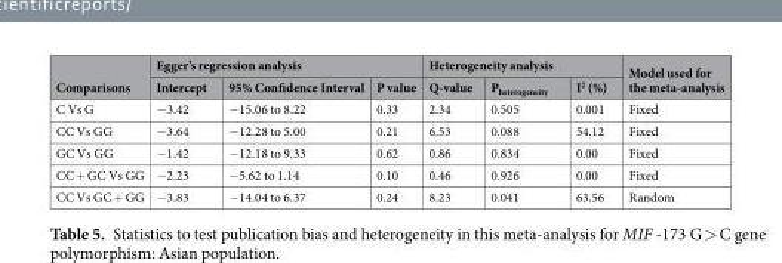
<table><thead><tr><td rowspan="2">Comparisons</td><td colspan="3">Egger’s regression analysis</td><td colspan="3">Heterogeneity analysis</td><td rowspan="2">Model used for the meta-analysis</td></tr><tr><td>Intercept</td><td>95% Confidence Interval</td><td>P value</td><td>Q-value</td><td>P<sub>heterogeneity</sub></td><td>I<sup>2</sup> (%)</td></tr></thead><tbody><tr><td>C Vs G</td><td>−3.42</td><td>−15.06 to 8.22</td><td>0.33</td><td>2.34</td><td>0.505</td><td>0.001</td><td>Fixed</td></tr><tr><td>CC Vs GG</td><td>−3.64</td><td>−12.28 to 5.00</td><td>0.21</td><td>6.53</td><td>0.088</td><td>54.12</td><td>Fixed</td></tr><tr><td>GC Vs GG</td><td>−1.42</td><td>−12.18 to 9.33</td><td>0.62</td><td>0.86</td><td>0.834</td><td>0.00</td><td>Fixed</td></tr><tr><td>CC + GC Vs GG</td><td>−2.23</td><td>−5.62 to 1.14</td><td>0.10</td><td>0.46</td><td>0.926</td><td>0.00</td><td>Fixed</td></tr><tr><td>CC Vs GC + GG</td><td>−3.83</td><td>−14.04 to 6.37</td><td>0.24</td><td>8.23</td><td>0.041</td><td>63.56</td><td>Random</td></tr></tbody></table>